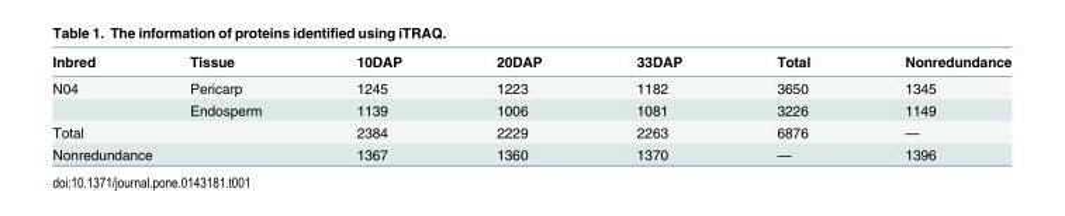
<table><thead><tr><td>Inbred</td><td>Tissue</td><td>10DAP</td><td>20DAP</td><td>33DAP</td><td>Total</td><td>Nonredundance</td></tr></thead><tbody><tr><td rowspan="2">N04</td><td>Pericarp</td><td>1245</td><td>1223</td><td>1182</td><td>3650</td><td>1345</td></tr><tr><td>Endosperm</td><td>1139</td><td>1006</td><td>1081</td><td>3226</td><td>1149</td></tr><tr><td colspan="2">Total</td><td>2384</td><td>2229</td><td>2263</td><td>6876</td><td>—</td></tr><tr><td colspan="2">Nonredundance</td><td>1367</td><td>1360</td><td>1370</td><td>—</td><td>1396</td></tr></tbody></table>